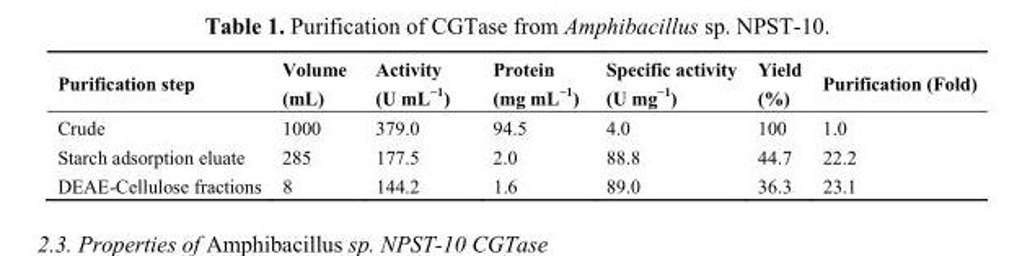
<table><thead><tr><td>Purification step</td><td>Volume (mL)</td><td>Activity (U mL<sup>−1</sup>)</td><td>Protein (mg mL<sup>−1</sup>)</td><td>Specific activity (U mg<sup>−1</sup>)</td><td>Yield (%)</td><td>Purification (Fold)</td></tr></thead><tbody><tr><td>Crude</td><td>1000</td><td>379.0</td><td>94.5</td><td>4.0</td><td>100</td><td>1.0</td></tr><tr><td>Starch adsorption eluate</td><td>285</td><td>177.5</td><td>2.0</td><td>88.8</td><td>44.7</td><td>22.2</td></tr><tr><td>DEAE-Cellulose fractions</td><td>8</td><td>144.2</td><td>1.6</td><td>89.0</td><td>36.3</td><td>23.1</td></tr></tbody></table>